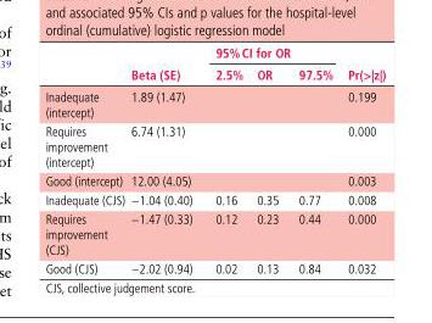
<table><thead><tr><td rowspan="2"></td><td rowspan="2">Beta (SE)</td><td colspan="3">95% CI for OR</td><td rowspan="2">Pr(&gt;|z|)</td></tr><tr><td>2.5%</td><td>OR</td><td>97.5%</td></tr></thead><tbody><tr><td>Inadequate (intercept)</td><td>1.89 (1.47)</td><td></td><td></td><td></td><td>0.199</td></tr><tr><td>Requires improvement (intercept)</td><td>6.74 (1.31)</td><td></td><td></td><td></td><td>0.000</td></tr><tr><td>Good (intercept)</td><td>12.00 (4.05)</td><td></td><td></td><td></td><td>0.003</td></tr><tr><td>Inadequate (CJS)</td><td>−1.04 (0.40)</td><td>0.16</td><td>0.35</td><td>0.77</td><td>0.008</td></tr><tr><td>Requires improvement (CJS)</td><td>−1.47 (0.33)</td><td>0.12</td><td>0.23</td><td>0.44</td><td>0.000</td></tr><tr><td>Good (CJS)</td><td>−2.02 (0.94)</td><td>0.02</td><td>0.13</td><td>0.84</td><td>0.032</td></tr></tbody></table>